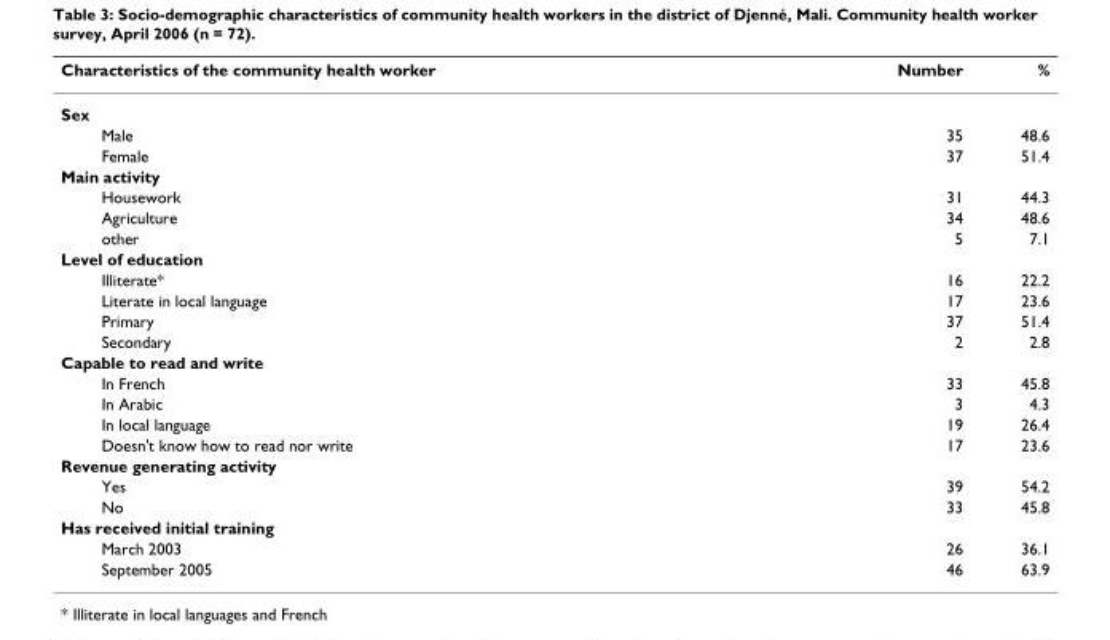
<table><thead><tr><td>Characteristics of the community health worker</td><td>Number</td><td>%</td></tr></thead><tbody><tr><td colspan="3">Sex</td></tr><tr><td>Male</td><td>35</td><td>48.6</td></tr><tr><td>Female</td><td>37</td><td>51.4</td></tr><tr><td colspan="3">Main activity</td></tr><tr><td>Housework</td><td>31</td><td>44.3</td></tr><tr><td>Agriculture</td><td>34</td><td>48.6</td></tr><tr><td>other</td><td>5</td><td>7.1</td></tr><tr><td colspan="3">Level of education</td></tr><tr><td>Illiterate*</td><td>16</td><td>22.2</td></tr><tr><td>Literate in local language</td><td>17</td><td>23.6</td></tr><tr><td>Primary</td><td>37</td><td>51.4</td></tr><tr><td>Secondary</td><td>2</td><td>2.8</td></tr><tr><td colspan="3">Capable to read and write</td></tr><tr><td>In French</td><td>33</td><td>45.8</td></tr><tr><td>In Arabic</td><td>3</td><td>4.3</td></tr><tr><td>In local language</td><td>19</td><td>26.4</td></tr><tr><td>Doesn&#x27;t know how to read nor write</td><td>17</td><td>23.6</td></tr><tr><td colspan="3">Revenue generating activity</td></tr><tr><td>Yes</td><td>39</td><td>54.2</td></tr><tr><td>No</td><td>33</td><td>45.8</td></tr><tr><td colspan="3">Has received initial training</td></tr><tr><td>March 2003</td><td>26</td><td>36.1</td></tr><tr><td>September 2005</td><td>46</td><td>63.9</td></tr></tbody></table>